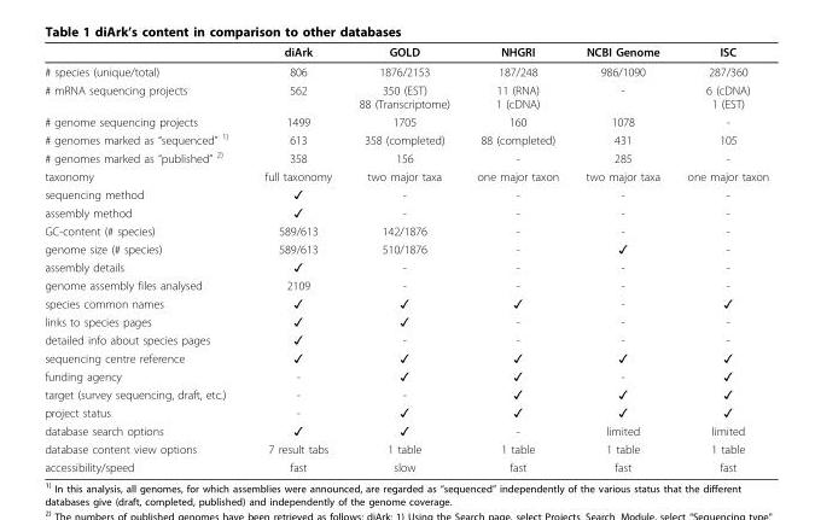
<table><thead><tr><td></td><td>diArk</td><td>GOLD</td><td>NHGRI</td><td>NCBI Genome</td><td>ISC</td></tr></thead><tbody><tr><td># species (unique/total)</td><td>806</td><td>1876/2153</td><td>187/248</td><td>986/1090</td><td>287/360</td></tr><tr><td># mRNA sequencing projects</td><td>562</td><td>350 (EST) 88 (Transcriptome)</td><td>11 (RNA) 1 (cDNA)</td><td>-</td><td>6 (cDNA) 1 (EST)</td></tr><tr><td># genome sequencing projects</td><td>1499</td><td>1705</td><td>160</td><td>1078</td><td>-</td></tr><tr><td># genomes marked as “sequenced” 1)</td><td>613</td><td>358 (completed)</td><td>88 (completed)</td><td>431</td><td>105</td></tr><tr><td># genomes marked as “published” 2)</td><td>358</td><td>156</td><td>-</td><td>285</td><td>-</td></tr><tr><td>taxonomy</td><td>full taxonomy</td><td>two major taxa</td><td>one major taxon</td><td>two major taxa</td><td>one major taxon</td></tr><tr><td>sequencing method</td><td>✓</td><td>-</td><td>-</td><td>-</td><td>-</td></tr><tr><td>assembly method</td><td>✓</td><td>-</td><td>-</td><td>-</td><td>-</td></tr><tr><td>GC-content (# species)</td><td>589/613</td><td>142/1876</td><td>-</td><td>-</td><td>-</td></tr><tr><td>genome size (# species)</td><td>589/613</td><td>510/1876</td><td>-</td><td>✓</td><td>-</td></tr><tr><td>assembly details</td><td>✓</td><td>-</td><td>-</td><td>-</td><td>-</td></tr><tr><td>genome assembly files analysed</td><td>2109</td><td>-</td><td>-</td><td>-</td><td>-</td></tr><tr><td>species common names</td><td>✓</td><td>✓</td><td>✓</td><td>-</td><td>✓</td></tr><tr><td>links to species pages</td><td>✓</td><td>✓</td><td>-</td><td>-</td><td>-</td></tr><tr><td>detailed info about species pages</td><td>✓</td><td>-</td><td>-</td><td>-</td><td>-</td></tr><tr><td>sequencing centre reference</td><td>✓</td><td>✓</td><td>✓</td><td>✓</td><td>✓</td></tr><tr><td>funding agency</td><td>-</td><td>✓</td><td>✓</td><td>-</td><td>✓</td></tr><tr><td>target (survey sequencing, draft, etc.)</td><td>-</td><td>-</td><td>✓</td><td>✓</td><td>✓</td></tr><tr><td>project status</td><td>-</td><td>✓</td><td>✓</td><td>✓</td><td>✓</td></tr><tr><td>database search options</td><td>✓</td><td>✓</td><td>-</td><td>limited</td><td>limited</td></tr><tr><td>database content view options</td><td>7 result tabs</td><td>1 table</td><td>1 table</td><td>1 table</td><td>1 table</td></tr><tr><td>accessibility/speed</td><td>fast</td><td>slow</td><td>fast</td><td>fast</td><td>fast</td></tr></tbody></table>